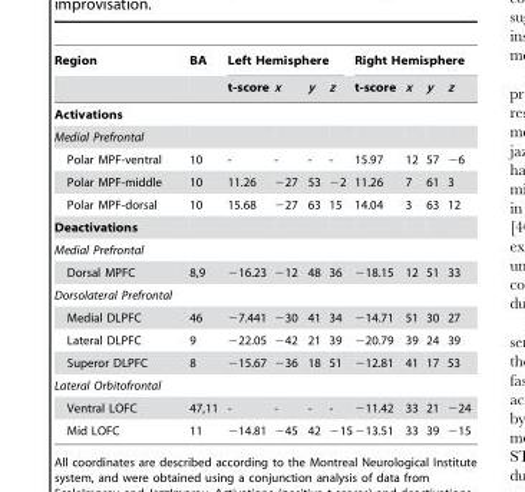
<table><thead><tr><td rowspan="2">Region</td><td rowspan="2">BA</td><td colspan="4">Left Hemisphere</td><td colspan="4">Right Hemisphere</td></tr><tr><td>t-score</td><td>x</td><td>y</td><td>z</td><td>t-score</td><td>x</td><td>y</td><td>z</td></tr></thead><tbody><tr><td colspan="10">Activations</td></tr><tr><td colspan="10">Medial Prefrontal</td></tr><tr><td>Polar MPF-ventral</td><td>10</td><td>-</td><td>-</td><td>-</td><td>-</td><td>15.97</td><td>12</td><td>57</td><td>−6</td></tr><tr><td>Polar MPF-middle</td><td>10</td><td>11.26</td><td>−27</td><td>53</td><td>−2</td><td>11.26</td><td>7</td><td>61</td><td>3</td></tr><tr><td>Polar MPF-dorsal</td><td>10</td><td>15.68</td><td>−27</td><td>63</td><td>15</td><td>14.04</td><td>3</td><td>63</td><td>12</td></tr><tr><td colspan="10">Deactivations</td></tr><tr><td colspan="10">Medial Prefrontal</td></tr><tr><td>Dorsal MPFC</td><td>8,9</td><td>−16.23</td><td>−12</td><td>48</td><td>36</td><td>−18.15</td><td>12</td><td>51</td><td>33</td></tr><tr><td colspan="10">Dorsolateral Prefrontal</td></tr><tr><td>Medial DLPFC</td><td>46</td><td>−7.441</td><td>−30</td><td>41</td><td>34</td><td>−14.71</td><td>51</td><td>30</td><td>27</td></tr><tr><td>Lateral DLPFC</td><td>9</td><td>−22.05</td><td>−42</td><td>21</td><td>39</td><td>−20.79</td><td>39</td><td>24</td><td>39</td></tr><tr><td>Superor DLPFC</td><td>8</td><td>−15.67</td><td>−36</td><td>18</td><td>51</td><td>−12.81</td><td>41</td><td>17</td><td>53</td></tr><tr><td colspan="10">Lateral Orbitofrontal</td></tr><tr><td>Ventral LOFC</td><td>47,11</td><td>-</td><td>-</td><td>-</td><td>-</td><td>−11.42</td><td>33</td><td>21</td><td>−24</td></tr><tr><td>Mid LOFC</td><td>11</td><td>−14.81</td><td>−45</td><td>42</td><td>−15</td><td>−13.51</td><td>33</td><td>39</td><td>−15</td></tr></tbody></table>